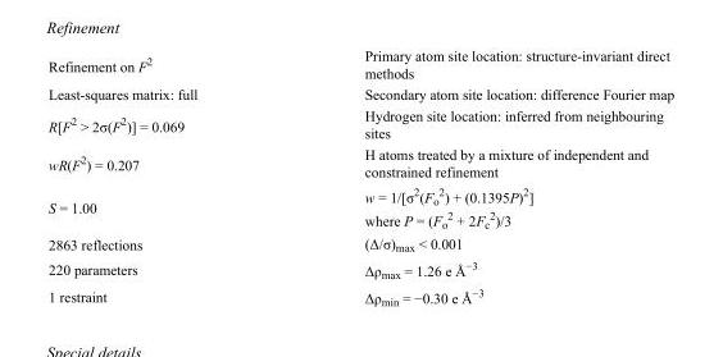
<table><tbody><tr><td>Refinement on F<sup>2</sup></td><td>Primary atom site location: structure-invariant direct methods</td></tr><tr><td>Least-squares matrix: full</td><td>Secondary atom site location: difference Fourier map</td></tr><tr><td>R[F<sup>2</sup> &gt; 2σ(F<sup>2</sup>)] = 0.069</td><td>Hydrogen site location: inferred from neighbouring sites</td></tr><tr><td>wR(F<sup>2</sup>) = 0.207</td><td>H atoms treated by a mixture of independent and constrained refinement</td></tr><tr><td>S = 1.00</td><td>w = 1/[σ<sup>2</sup>(F<sub>o</sub> <sup>2</sup>) + (0.1395P)<sup>2</sup>] where P = (F<sub>o</sub> <sup>2</sup> + 2F<sub>c</sub> <sup>2</sup>)/3</td></tr><tr><td>2863 reflections</td><td>(Δ/σ)<sub>max</sub> &lt; 0.001</td></tr><tr><td>220 parameters</td><td>Δρ<sub>max</sub> = 1.26 e Å<sup>−3</sup></td></tr><tr><td>1 restraint</td><td>Δρ<sub>min</sub> = −0.30 e Å<sup>−3</sup></td></tr></tbody></table>